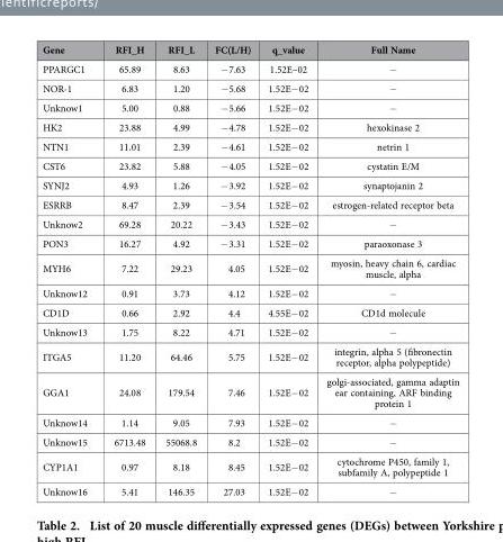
<table><thead><tr><td>Gene</td><td>RFI_H</td><td>RFI_L</td><td>FC(L/H)</td><td>q_value</td><td>Full Name</td></tr></thead><tbody><tr><td>PPARGC1</td><td>65.89</td><td>8.63</td><td>− 7.63</td><td>1.52E–02</td><td>−</td></tr><tr><td>NOR-1</td><td>6.83</td><td>1.20</td><td>− 5.68</td><td>1.52E− 02</td><td>−</td></tr><tr><td>Unknow1</td><td>5.00</td><td>0.88</td><td>− 5.66</td><td>1.52E− 02</td><td>−</td></tr><tr><td>HK2</td><td>23.88</td><td>4.99</td><td>− 4.78</td><td>1.52E− 02</td><td>hexokinase 2</td></tr><tr><td>NTN1</td><td>11.01</td><td>2.39</td><td>− 4.61</td><td>1.52E− 02</td><td>netrin 1</td></tr><tr><td>CST6</td><td>23.82</td><td>5.88</td><td>− 4.05</td><td>1.52E− 02</td><td>cystatin E/M</td></tr><tr><td>SYNJ2</td><td>4.93</td><td>1.26</td><td>− 3.92</td><td>1.52E− 02</td><td>synaptojanin 2</td></tr><tr><td>ESRRB</td><td>8.47</td><td>2.39</td><td>− 3.54</td><td>1.52E− 02</td><td>estrogen-related receptor beta</td></tr><tr><td>Unknow2</td><td>69.28</td><td>20.22</td><td>− 3.43</td><td>1.52E− 02</td><td>−</td></tr><tr><td>PON3</td><td>16.27</td><td>4.92</td><td>− 3.31</td><td>1.52E− 02</td><td>paraoxonase 3</td></tr><tr><td>MYH6</td><td>7.22</td><td>29.23</td><td>4.05</td><td>1.52E− 02</td><td>myosin, heavy chain 6, cardiac muscle, alpha</td></tr><tr><td>Unknow12</td><td>0.91</td><td>3.73</td><td>4.12</td><td>1.52E− 02</td><td>−</td></tr><tr><td>CD1D</td><td>0.66</td><td>2.92</td><td>4.4</td><td>4.55E− 02</td><td>CD1d molecule</td></tr><tr><td>Unknow13</td><td>1.75</td><td>8.22</td><td>4.71</td><td>1.52E− 02</td><td>−</td></tr><tr><td>ITGA5</td><td>11.20</td><td>64.46</td><td>5.75</td><td>1.52E− 02</td><td>integrin, alpha 5 (fibronectin receptor, alpha polypeptide)</td></tr><tr><td>GGA1</td><td>24.08</td><td>179.54</td><td>7.46</td><td>1.52E− 02</td><td>golgi-associated, gamma adaptin ear containing, ARF binding protein 1</td></tr><tr><td>Unknow14</td><td>1.14</td><td>9.05</td><td>7.93</td><td>1.52E− 02</td><td>−</td></tr><tr><td>Unknow15</td><td>6713.48</td><td>55068.8</td><td>8.2</td><td>1.52E− 02</td><td>−</td></tr><tr><td>CYP1A1</td><td>0.97</td><td>8.18</td><td>8.45</td><td>1.52E− 02</td><td>cytochrome P450, family 1, subfamily A, polypeptide 1</td></tr><tr><td>Unknow16</td><td>5.41</td><td>146.35</td><td>27.03</td><td>1.52E− 02</td><td>−</td></tr></tbody></table>